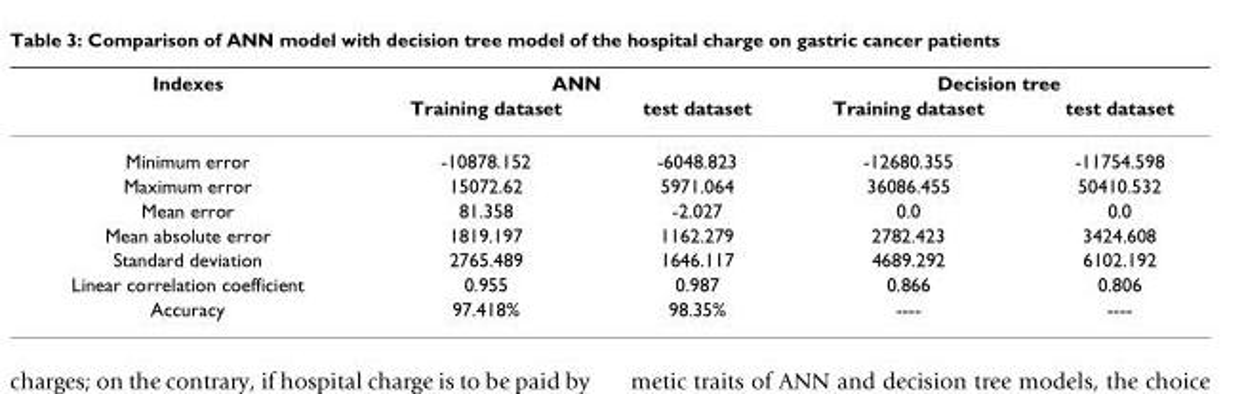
<table><thead><tr><td rowspan="2">Indexes</td><td colspan="2">ANN</td><td colspan="2">Decision tree</td></tr><tr><td>Training dataset</td><td>test dataset</td><td>Training dataset</td><td>test dataset</td></tr></thead><tbody><tr><td>Minimum error</td><td>-10878.152</td><td>-6048.823</td><td>-12680.355</td><td>-11754.598</td></tr><tr><td>Maximum error</td><td>15072.62</td><td>5971.064</td><td>36086.455</td><td>50410.532</td></tr><tr><td>Mean error</td><td>81.358</td><td>-2.027</td><td>0.0</td><td>0.0</td></tr><tr><td>Mean absolute error</td><td>1819.197</td><td>1162.279</td><td>2782.423</td><td>3424.608</td></tr><tr><td>Standard deviation</td><td>2765.489</td><td>1646.117</td><td>4689.292</td><td>6102.192</td></tr><tr><td>Linear correlation coefficient</td><td>0.955</td><td>0.987</td><td>0.866</td><td>0.806</td></tr><tr><td>Accuracy</td><td>97.418%</td><td>98.35%</td><td>----</td><td>----</td></tr></tbody></table>